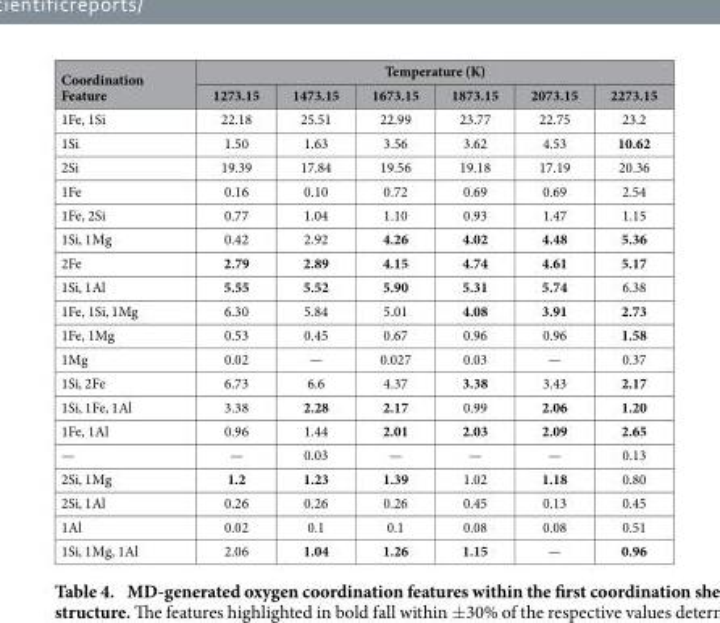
<table><thead><tr><td rowspan="2">Coordination Feature</td><td colspan="6">Temperature (K)</td></tr><tr><td>1273.15</td><td>1473.15</td><td>1673.15</td><td>1873.15</td><td>2073.15</td><td>2273.15</td></tr></thead><tbody><tr><td>1Fe, 1Si</td><td>22.18</td><td>25.51</td><td>22.99</td><td>23.77</td><td>22.75</td><td>23.2</td></tr><tr><td>1Si</td><td>1.50</td><td>1.63</td><td>3.56</td><td>3.62</td><td>4.53</td><td>10.62</td></tr><tr><td>2Si</td><td>19.39</td><td>17.84</td><td>19.56</td><td>19.18</td><td>17.19</td><td>20.36</td></tr><tr><td>1Fe</td><td>0.16</td><td>0.10</td><td>0.72</td><td>0.69</td><td>0.69</td><td>2.54</td></tr><tr><td>1Fe, 2Si</td><td>0.77</td><td>1.04</td><td>1.10</td><td>0.93</td><td>1.47</td><td>1.15</td></tr><tr><td>1Si, 1Mg</td><td>0.42</td><td>2.92</td><td>4.26</td><td>4.02</td><td>4.48</td><td>5.36</td></tr><tr><td>2Fe</td><td>2.79</td><td>2.89</td><td>4.15</td><td>4.74</td><td>4.61</td><td>5.17</td></tr><tr><td>1Si, 1Al</td><td>5.55</td><td>5.52</td><td>5.90</td><td>5.31</td><td>5.74</td><td>6.38</td></tr><tr><td>1Fe, 1Si, 1Mg</td><td>6.30</td><td>5.84</td><td>5.01</td><td>4.08</td><td>3.91</td><td>2.73</td></tr><tr><td>1Fe, 1Mg</td><td>0.53</td><td>0.45</td><td>0.67</td><td>0.96</td><td>0.96</td><td>1.58</td></tr><tr><td>1Mg</td><td>0.02</td><td>—</td><td>0.027</td><td>0.03</td><td>—</td><td>0.37</td></tr><tr><td>1Si, 2Fe</td><td>6.73</td><td>6.6</td><td>4.37</td><td>3.38</td><td>3.43</td><td>2.17</td></tr><tr><td>1Si, 1Fe, 1Al</td><td>3.38</td><td>2.28</td><td>2.17</td><td>0.99</td><td>2.06</td><td>1.20</td></tr><tr><td>1Fe, 1Al</td><td>0.96</td><td>1.44</td><td>2.01</td><td>2.03</td><td>2.09</td><td>2.65</td></tr><tr><td>—</td><td>—</td><td>0.03</td><td>—</td><td>—</td><td>—</td><td>0.13</td></tr><tr><td>2Si, 1Mg</td><td>1.2</td><td>1.23</td><td>1.39</td><td>1.02</td><td>1.18</td><td>0.80</td></tr><tr><td>2Si, 1Al</td><td>0.26</td><td>0.26</td><td>0.26</td><td>0.45</td><td>0.13</td><td>0.45</td></tr><tr><td>1Al</td><td>0.02</td><td>0.1</td><td>0.1</td><td>0.08</td><td>0.08</td><td>0.51</td></tr><tr><td>1Si, 1Mg, 1Al</td><td>2.06</td><td>1.04</td><td>1.26</td><td>1.15</td><td>—</td><td>0.96</td></tr></tbody></table>